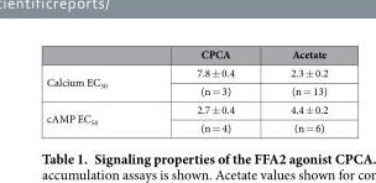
<table><thead><tr><td></td><td>CPCA</td><td>Acetate</td></tr></thead><tbody><tr><td rowspan="2">Calcium EC<sub>50</sub></td><td>7.8 ± 0.4</td><td>2.3 ± 0.2</td></tr><tr><td>(n = 3)</td><td>(n = 13)</td></tr><tr><td rowspan="2">cAMP EC<sub>50</sub></td><td>2.7 ± 0.4</td><td>4.4 ± 0.2</td></tr><tr><td>(n = 4)</td><td>(n = 6)</td></tr></tbody></table>